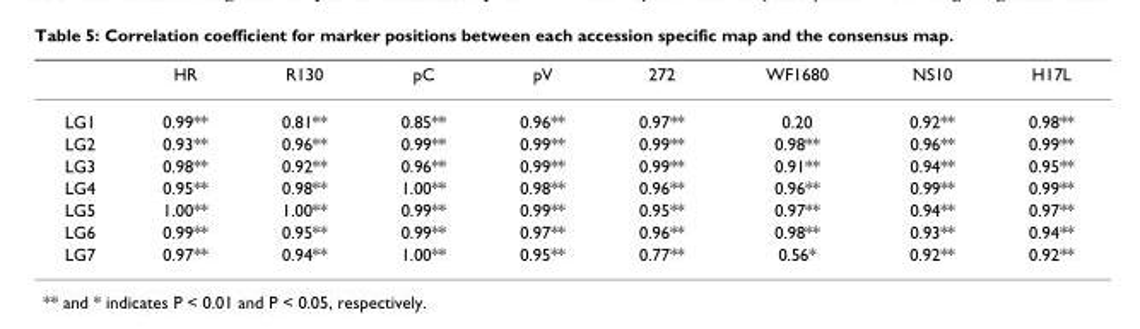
<table><thead><tr><td></td><td>HR</td><td>R130</td><td>pC</td><td>pV</td><td>272</td><td>WF1680</td><td>NS10</td><td>H17L</td></tr></thead><tbody><tr><td>LG1</td><td>0.99**</td><td>0.81**</td><td>0.85**</td><td>0.96**</td><td>0.97**</td><td>0.20</td><td>0.92**</td><td>0.98**</td></tr><tr><td>LG2</td><td>0.93**</td><td>0.96**</td><td>0.99**</td><td>0.99**</td><td>0.99**</td><td>0.98**</td><td>0.96**</td><td>0.99**</td></tr><tr><td>LG3</td><td>0.98**</td><td>0.92**</td><td>0.96**</td><td>0.99**</td><td>0.99**</td><td>0.91**</td><td>0.94**</td><td>0.95**</td></tr><tr><td>LG4</td><td>0.95**</td><td>0.98**</td><td>1.00**</td><td>0.98**</td><td>0.96**</td><td>0.96**</td><td>0.99**</td><td>0.99**</td></tr><tr><td>LG5</td><td>1.00**</td><td>1.00**</td><td>0.99**</td><td>0.99**</td><td>0.95**</td><td>0.97**</td><td>0.94**</td><td>0.97**</td></tr><tr><td>LG6</td><td>0.99**</td><td>0.95**</td><td>0.99**</td><td>0.97**</td><td>0.96**</td><td>0.98**</td><td>0.93**</td><td>0.94**</td></tr><tr><td>LG7</td><td>0.97**</td><td>0.94**</td><td>1.00**</td><td>0.95**</td><td>0.77**</td><td>0.56*</td><td>0.92**</td><td>0.92**</td></tr></tbody></table>